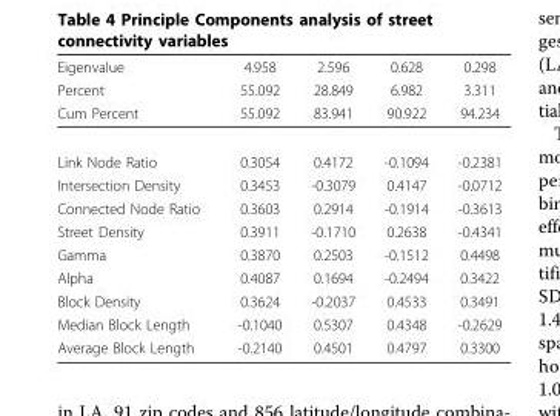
<table><thead><tr><td rowspan="3">Eigenvalue Percent Cum Percent</td><td rowspan="3">4.958 55.092 55.092</td><td rowspan="3">2.596 28.849 83.941</td><td rowspan="3">0.628 6.982 90.922</td><td rowspan="3">0.298 3.311 94.234</td></tr><tr></tr><tr></tr></thead><tbody><tr><td>Link Node Ratio</td><td>0.3054</td><td>0.4172</td><td>-0.1094</td><td>-0.2381</td></tr><tr><td>Intersection Density</td><td>0.3453</td><td>-0.3079</td><td>0.4147</td><td>-0.0712</td></tr><tr><td>Connected Node Ratio</td><td>0.3603</td><td>0.2914</td><td>-0.1914</td><td>-0.3613</td></tr><tr><td>Street Density</td><td>0.3911</td><td>-0.1710</td><td>0.2638</td><td>-0.4341</td></tr><tr><td>Gamma</td><td>0.3870</td><td>0.2503</td><td>-0.1512</td><td>0.4498</td></tr><tr><td>Alpha</td><td>0.4087</td><td>0.1694</td><td>-0.2494</td><td>0.3422</td></tr><tr><td>Block Density</td><td>0.3624</td><td>-0.2037</td><td>0.4533</td><td>0.3491</td></tr><tr><td>Median Block Length</td><td>-0.1040</td><td>0.5307</td><td>0.4348</td><td>-0.2629</td></tr><tr><td>Average Block Length</td><td>-0.2140</td><td>0.4501</td><td>0.4797</td><td>0.3300</td></tr></tbody></table>